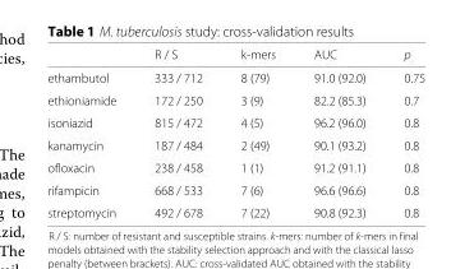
<table><thead><tr><td></td><td>R / S</td><td>k-mers</td><td>AUC</td><td>p</td></tr></thead><tbody><tr><td>ethambutol</td><td>333 / 712</td><td>8 (79)</td><td>91.0 (92.0)</td><td>0.75</td></tr><tr><td>ethioniamide</td><td>172 / 250</td><td>3 (9)</td><td>82.2 (85.3)</td><td>0.7</td></tr><tr><td>isoniazid</td><td>815 / 472</td><td>4 (5)</td><td>96.2 (96.0)</td><td>0.8</td></tr><tr><td>kanamycin</td><td>187 / 484</td><td>2 (49)</td><td>90.1 (93.2)</td><td>0.8</td></tr><tr><td>ofloxacin</td><td>238 / 458</td><td>1 (1)</td><td>91.2 (91.1)</td><td>0.8</td></tr><tr><td>rifampicin</td><td>668 / 533</td><td>7 (6)</td><td>96.6 (96.6)</td><td>0.8</td></tr><tr><td>streptomycin</td><td>492 / 678</td><td>7 (22)</td><td>90.8 (92.3)</td><td>0.8</td></tr></tbody></table>